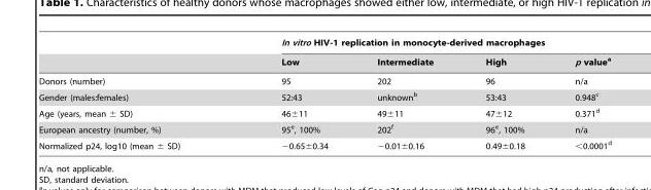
<table><thead><tr><td rowspan="2"></td><td colspan="4">In vitro HIV-1 replication in monocyte-derived macrophages</td></tr><tr><td>Low</td><td>Intermediate</td><td>High</td><td>p value<sup>a</sup></td></tr></thead><tbody><tr><td>Donors (number)</td><td>95</td><td>202</td><td>96</td><td>n/a</td></tr><tr><td>Gender (males:females)</td><td>52:43</td><td>unknown<sup>b</sup></td><td>53:43</td><td>0.948<sup>c</sup></td></tr><tr><td>Age (years, mean ± SD)</td><td>46±11</td><td>49±11</td><td>47±12</td><td>0.371<sup>d</sup></td></tr><tr><td>European ancestry (number, %)</td><td>95<sup>e</sup>, 100%</td><td>202<sup>f</sup></td><td>96<sup>e</sup>, 100%</td><td>n/a</td></tr><tr><td>Normalized p24, log10 (mean ± SD)</td><td>−0.65±0.34</td><td>−0.01±0.16</td><td>0.49±0.18</td><td>&lt;0.0001<sup>d</sup></td></tr></tbody></table>